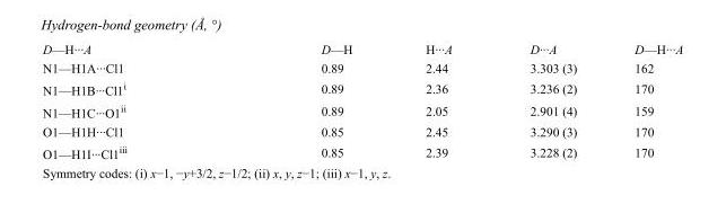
<table><tbody><tr><td>D—H···A</td><td>D—H</td><td>H···A</td><td>D···A</td><td>D—H···A</td></tr><tr><td>N1—H1A···Cl1</td><td>0.89</td><td>2.44</td><td>3.303 (3)</td><td>162</td></tr><tr><td>N1—H1B···Cl1<sup>i</sup></td><td>0.89</td><td>2.36</td><td>3.236 (2)</td><td>170</td></tr><tr><td>N1—H1C···O1<sup>ii</sup></td><td>0.89</td><td>2.05</td><td>2.901 (4)</td><td>159</td></tr><tr><td>O1—H1H···Cl1</td><td>0.85</td><td>2.45</td><td>3.290 (3)</td><td>170</td></tr><tr><td>O1—H1I···Cl1<sup>iii</sup></td><td>0.85</td><td>2.39</td><td>3.228 (2)</td><td>170</td></tr></tbody></table>